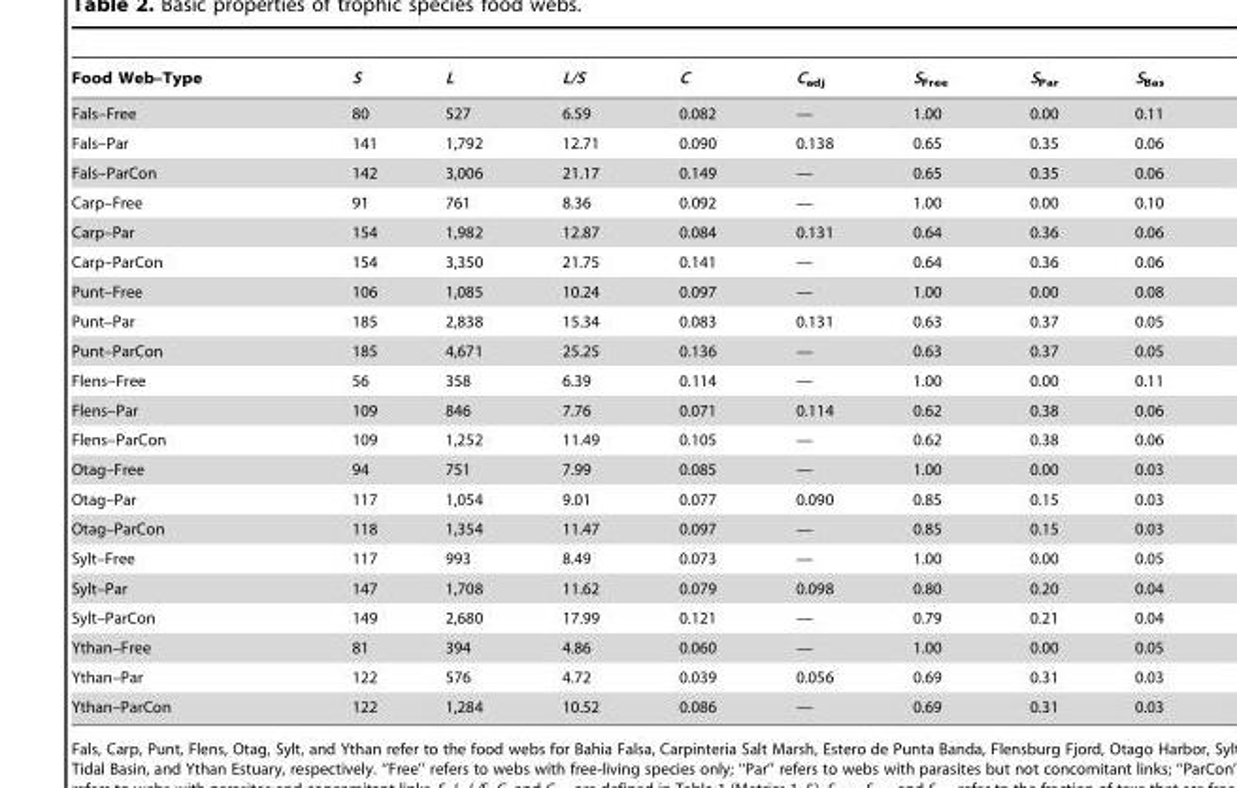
<table><thead><tr><td>Food Web–Type</td><td>S</td><td>L</td><td>L/S</td><td>C</td><td>C<sub>adj</sub></td><td>S<sub>Free</sub></td><td>S<sub>Par</sub></td><td>S<sub>Bas</sub></td></tr></thead><tbody><tr><td>Fals–Free</td><td>80</td><td>527</td><td>6.59</td><td>0.082</td><td>—</td><td>1.00</td><td>0.00</td><td>0.11</td></tr><tr><td>Fals–Par</td><td>141</td><td>1,792</td><td>12.71</td><td>0.090</td><td>0.138</td><td>0.65</td><td>0.35</td><td>0.06</td></tr><tr><td>Fals–ParCon</td><td>142</td><td>3,006</td><td>21.17</td><td>0.149</td><td>—</td><td>0.65</td><td>0.35</td><td>0.06</td></tr><tr><td>Carp–Free</td><td>91</td><td>761</td><td>8.36</td><td>0.092</td><td>—</td><td>1.00</td><td>0.00</td><td>0.10</td></tr><tr><td>Carp–Par</td><td>154</td><td>1,982</td><td>12.87</td><td>0.084</td><td>0.131</td><td>0.64</td><td>0.36</td><td>0.06</td></tr><tr><td>Carp–ParCon</td><td>154</td><td>3,350</td><td>21.75</td><td>0.141</td><td>—</td><td>0.64</td><td>0.36</td><td>0.06</td></tr><tr><td>Punt–Free</td><td>106</td><td>1,085</td><td>10.24</td><td>0.097</td><td>—</td><td>1.00</td><td>0.00</td><td>0.08</td></tr><tr><td>Punt–Par</td><td>185</td><td>2,838</td><td>15.34</td><td>0.083</td><td>0.131</td><td>0.63</td><td>0.37</td><td>0.05</td></tr><tr><td>Punt–ParCon</td><td>185</td><td>4,671</td><td>25.25</td><td>0.136</td><td>—</td><td>0.63</td><td>0.37</td><td>0.05</td></tr><tr><td>Flens–Free</td><td>56</td><td>358</td><td>6.39</td><td>0.114</td><td>—</td><td>1.00</td><td>0.00</td><td>0.11</td></tr><tr><td>Flens–Par</td><td>109</td><td>846</td><td>7.76</td><td>0.071</td><td>0.114</td><td>0.62</td><td>0.38</td><td>0.06</td></tr><tr><td>Flens–ParCon</td><td>109</td><td>1,252</td><td>11.49</td><td>0.105</td><td>—</td><td>0.62</td><td>0.38</td><td>0.06</td></tr><tr><td>Otag–Free</td><td>94</td><td>751</td><td>7.99</td><td>0.085</td><td>—</td><td>1.00</td><td>0.00</td><td>0.03</td></tr><tr><td>Otag–Par</td><td>117</td><td>1,054</td><td>9.01</td><td>0.077</td><td>0.090</td><td>0.85</td><td>0.15</td><td>0.03</td></tr><tr><td>Otag–ParCon</td><td>118</td><td>1,354</td><td>11.47</td><td>0.097</td><td>—</td><td>0.85</td><td>0.15</td><td>0.03</td></tr><tr><td>Sylt–Free</td><td>117</td><td>993</td><td>8.49</td><td>0.073</td><td>—</td><td>1.00</td><td>0.00</td><td>0.05</td></tr><tr><td>Sylt–Par</td><td>147</td><td>1,708</td><td>11.62</td><td>0.079</td><td>0.098</td><td>0.80</td><td>0.20</td><td>0.04</td></tr><tr><td>Sylt–ParCon</td><td>149</td><td>2,680</td><td>17.99</td><td>0.121</td><td>—</td><td>0.79</td><td>0.21</td><td>0.04</td></tr><tr><td>Ythan–Free</td><td>81</td><td>394</td><td>4.86</td><td>0.060</td><td>—</td><td>1.00</td><td>0.00</td><td>0.05</td></tr><tr><td>Ythan–Par</td><td>122</td><td>576</td><td>4.72</td><td>0.039</td><td>0.056</td><td>0.69</td><td>0.31</td><td>0.03</td></tr><tr><td>Ythan–ParCon</td><td>122</td><td>1,284</td><td>10.52</td><td>0.086</td><td>—</td><td>0.69</td><td>0.31</td><td>0.03</td></tr></tbody></table>